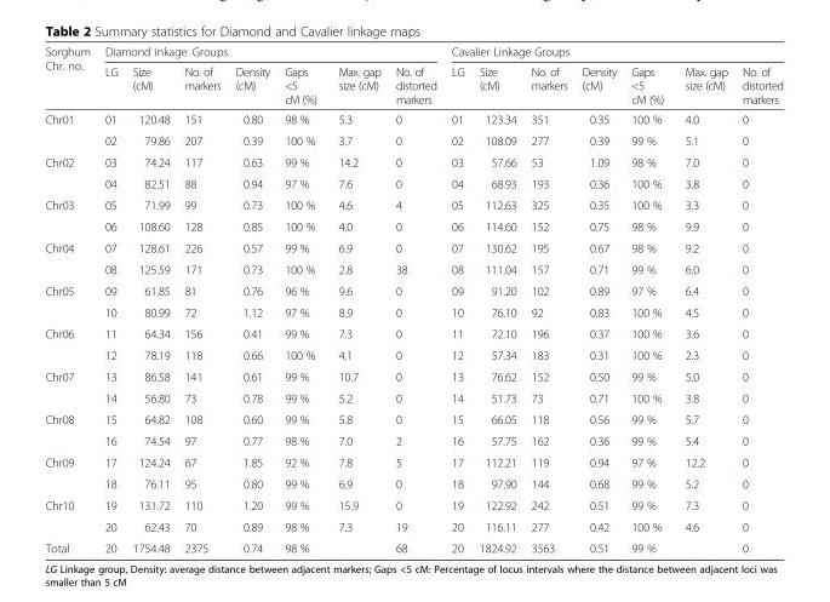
<table><thead><tr><td rowspan="2">Sorghum Chr. no.</td><td colspan="7">Diamond inkage Groups</td><td colspan="7">Cavalier Linkage Groups</td></tr><tr><td>LG</td><td>Size (cM)</td><td>No. of markers</td><td>Density (cM)</td><td>Gaps &lt;5 cM (%)</td><td>Max. gap size (cM)</td><td>No. of distorted markers</td><td>LG</td><td>Size (cM)</td><td>No. of markers</td><td>Density (cM)</td><td>Gaps &lt;5 cM (%)</td><td>Max. gap size (cM)</td><td>No. of distorted markers</td></tr></thead><tbody><tr><td rowspan="2">Chr01</td><td>01</td><td>120.48</td><td>151</td><td>0.80</td><td>98 %</td><td>5.3</td><td>0</td><td>01</td><td>123.34</td><td>351</td><td>0.35</td><td>100 %</td><td>4.0</td><td>0</td></tr><tr><td>02</td><td>79.86</td><td>207</td><td>0.39</td><td>100 %</td><td>3.7</td><td>0</td><td>02</td><td>108.09</td><td>277</td><td>0.39</td><td>99 %</td><td>5.1</td><td>0</td></tr><tr><td rowspan="2">Chr02</td><td>03</td><td>74.24</td><td>117</td><td>0.63</td><td>99 %</td><td>14.2</td><td>0</td><td>03</td><td>57.66</td><td>53</td><td>1.09</td><td>98 %</td><td>7.0</td><td>0</td></tr><tr><td>04</td><td>82.51</td><td>88</td><td>0.94</td><td>97 %</td><td>7.6</td><td>0</td><td>04</td><td>68.93</td><td>193</td><td>0.36</td><td>100 %</td><td>3.8</td><td>0</td></tr><tr><td rowspan="2">Chr03</td><td>05</td><td>71.99</td><td>99</td><td>0.73</td><td>100 %</td><td>4.6</td><td>4</td><td>05</td><td>112.63</td><td>325</td><td>0.35</td><td>100 %</td><td>3.3</td><td>0</td></tr><tr><td>06</td><td>108.60</td><td>128</td><td>0.85</td><td>100 %</td><td>4.0</td><td>0</td><td>06</td><td>114.60</td><td>152</td><td>0.75</td><td>98 %</td><td>9.9</td><td>0</td></tr><tr><td rowspan="2">Chr04</td><td>07</td><td>128.61</td><td>226</td><td>0.57</td><td>99 %</td><td>6.9</td><td>0</td><td>07</td><td>130.62</td><td>195</td><td>0.67</td><td>98 %</td><td>9.2</td><td>0</td></tr><tr><td>08</td><td>125.59</td><td>171</td><td>0.73</td><td>100 %</td><td>2.8</td><td>38</td><td>08</td><td>111.04</td><td>157</td><td>0.71</td><td>99 %</td><td>6.0</td><td>0</td></tr><tr><td rowspan="2">Chr05</td><td>09</td><td>61.85</td><td>81</td><td>0.76</td><td>96 %</td><td>9.6</td><td>0</td><td>09</td><td>91.20</td><td>102</td><td>0.89</td><td>97 %</td><td>6.4</td><td>0</td></tr><tr><td>10</td><td>80.99</td><td>72</td><td>1.12</td><td>97 %</td><td>8.9</td><td>0</td><td>10</td><td>76.10</td><td>92</td><td>0.83</td><td>100 %</td><td>4.5</td><td>0</td></tr><tr><td rowspan="2">Chr06</td><td>11</td><td>64.34</td><td>156</td><td>0.41</td><td>99 %</td><td>7.3</td><td>0</td><td>11</td><td>72.10</td><td>196</td><td>0.37</td><td>100 %</td><td>3.6</td><td>0</td></tr><tr><td>12</td><td>78.19</td><td>118</td><td>0.66</td><td>100 %</td><td>4.1</td><td>0</td><td>12</td><td>57.34</td><td>183</td><td>0.31</td><td>100 %</td><td>2.3</td><td>0</td></tr><tr><td rowspan="2">Chr07</td><td>13</td><td>86.58</td><td>141</td><td>0.61</td><td>99 %</td><td>10.7</td><td>0</td><td>13</td><td>76.62</td><td>152</td><td>0.50</td><td>99 %</td><td>5.0</td><td>0</td></tr><tr><td>14</td><td>56.80</td><td>73</td><td>0.78</td><td>99 %</td><td>5.2</td><td>0</td><td>14</td><td>51.73</td><td>73</td><td>0.71</td><td>100 %</td><td>3.8</td><td>0</td></tr><tr><td rowspan="2">Chr08</td><td>15</td><td>64.82</td><td>108</td><td>0.60</td><td>99 %</td><td>5.8</td><td>0</td><td>15</td><td>66.05</td><td>118</td><td>0.56</td><td>99 %</td><td>5.7</td><td>0</td></tr><tr><td>16</td><td>74.54</td><td>97</td><td>0.77</td><td>98 %</td><td>7.0</td><td>2</td><td>16</td><td>57.75</td><td>162</td><td>0.36</td><td>99 %</td><td>5.4</td><td>0</td></tr><tr><td rowspan="2">Chr09</td><td>17</td><td>124.24</td><td>67</td><td>1.85</td><td>92 %</td><td>7.8</td><td>5</td><td>17</td><td>112.21</td><td>119</td><td>0.94</td><td>97 %</td><td>12.2</td><td>0</td></tr><tr><td>18</td><td>76.11</td><td>95</td><td>0.80</td><td>99 %</td><td>6.9</td><td>0</td><td>18</td><td>97.90</td><td>144</td><td>0.68</td><td>99 %</td><td>5.2</td><td>0</td></tr><tr><td rowspan="2">Chr10</td><td>19</td><td>131.72</td><td>110</td><td>1.20</td><td>99 %</td><td>15.9</td><td>0</td><td>19</td><td>122.92</td><td>242</td><td>0.51</td><td>99 %</td><td>7.3</td><td>0</td></tr><tr><td>20</td><td>62.43</td><td>70</td><td>0.89</td><td>98 %</td><td>7.3</td><td>19</td><td>20</td><td>116.11</td><td>277</td><td>0.42</td><td>100 %</td><td>4.6</td><td>0</td></tr><tr><td>Total</td><td>20</td><td>1754.48</td><td>2375</td><td>0.74</td><td>98 %</td><td></td><td>68</td><td>20</td><td>1824.92</td><td>3563</td><td>0.51</td><td>99 %</td><td></td><td>0</td></tr></tbody></table>